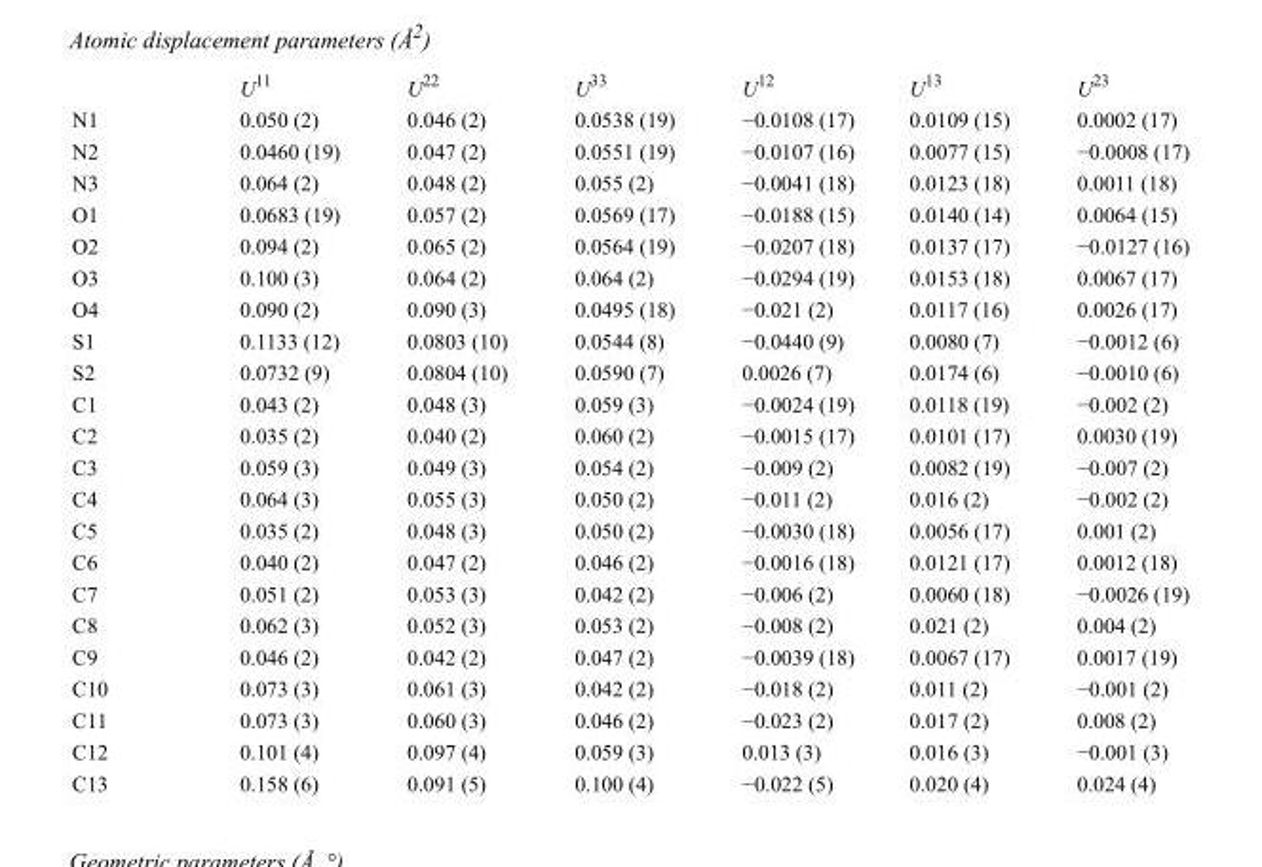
<table><thead><tr><td></td><td>U<sup>11</sup></td><td>U<sup>22</sup></td><td>U<sup>33</sup></td><td>U<sup>12</sup></td><td>U<sup>13</sup></td><td>U<sup>23</sup></td></tr></thead><tbody><tr><td>N1</td><td>0.050 (2)</td><td>0.046 (2)</td><td>0.0538 (19)</td><td>−0.0108 (17)</td><td>0.0109 (15)</td><td>0.0002 (17)</td></tr><tr><td>N2</td><td>0.0460 (19)</td><td>0.047 (2)</td><td>0.0551 (19)</td><td>−0.0107 (16)</td><td>0.0077 (15)</td><td>−0.0008 (17)</td></tr><tr><td>N3</td><td>0.064 (2)</td><td>0.048 (2)</td><td>0.055 (2)</td><td>−0.0041 (18)</td><td>0.0123 (18)</td><td>0.0011 (18)</td></tr><tr><td>O1</td><td>0.0683 (19)</td><td>0.057 (2)</td><td>0.0569 (17)</td><td>−0.0188 (15)</td><td>0.0140 (14)</td><td>0.0064 (15)</td></tr><tr><td>O2</td><td>0.094 (2)</td><td>0.065 (2)</td><td>0.0564 (19)</td><td>−0.0207 (18)</td><td>0.0137 (17)</td><td>−0.0127 (16)</td></tr><tr><td>O3</td><td>0.100 (3)</td><td>0.064 (2)</td><td>0.064 (2)</td><td>−0.0294 (19)</td><td>0.0153 (18)</td><td>0.0067 (17)</td></tr><tr><td>O4</td><td>0.090 (2)</td><td>0.090 (3)</td><td>0.0495 (18)</td><td>−0.021 (2)</td><td>0.0117 (16)</td><td>0.0026 (17)</td></tr><tr><td>S1</td><td>0.1133 (12)</td><td>0.0803 (10)</td><td>0.0544 (8)</td><td>−0.0440 (9)</td><td>0.0080 (7)</td><td>−0.0012 (6)</td></tr><tr><td>S2</td><td>0.0732 (9)</td><td>0.0804 (10)</td><td>0.0590 (7)</td><td>0.0026 (7)</td><td>0.0174 (6)</td><td>−0.0010 (6)</td></tr><tr><td>C1</td><td>0.043 (2)</td><td>0.048 (3)</td><td>0.059 (3)</td><td>−0.0024 (19)</td><td>0.0118 (19)</td><td>−0.002 (2)</td></tr><tr><td>C2</td><td>0.035 (2)</td><td>0.040 (2)</td><td>0.060 (2)</td><td>−0.0015 (17)</td><td>0.0101 (17)</td><td>0.0030 (19)</td></tr><tr><td>C3</td><td>0.059 (3)</td><td>0.049 (3)</td><td>0.054 (2)</td><td>−0.009 (2)</td><td>0.0082 (19)</td><td>−0.007 (2)</td></tr><tr><td>C4</td><td>0.064 (3)</td><td>0.055 (3)</td><td>0.050 (2)</td><td>−0.011 (2)</td><td>0.016 (2)</td><td>−0.002 (2)</td></tr><tr><td>C5</td><td>0.035 (2)</td><td>0.048 (3)</td><td>0.050 (2)</td><td>−0.0030 (18)</td><td>0.0056 (17)</td><td>0.001 (2)</td></tr><tr><td>C6</td><td>0.040 (2)</td><td>0.047 (2)</td><td>0.046 (2)</td><td>−0.0016 (18)</td><td>0.0121 (17)</td><td>0.0012 (18)</td></tr><tr><td>C7</td><td>0.051 (2)</td><td>0.053 (3)</td><td>0.042 (2)</td><td>−0.006 (2)</td><td>0.0060 (18)</td><td>−0.0026 (19)</td></tr><tr><td>C8</td><td>0.062 (3)</td><td>0.052 (3)</td><td>0.053 (2)</td><td>−0.008 (2)</td><td>0.021 (2)</td><td>0.004 (2)</td></tr><tr><td>C9</td><td>0.046 (2)</td><td>0.042 (2)</td><td>0.047 (2)</td><td>−0.0039 (18)</td><td>0.0067 (17)</td><td>0.0017 (19)</td></tr><tr><td>C10</td><td>0.073 (3)</td><td>0.061 (3)</td><td>0.042 (2)</td><td>−0.018 (2)</td><td>0.011 (2)</td><td>−0.001 (2)</td></tr><tr><td>C11</td><td>0.073 (3)</td><td>0.060 (3)</td><td>0.046 (2)</td><td>−0.023 (2)</td><td>0.017 (2)</td><td>0.008 (2)</td></tr><tr><td>C12</td><td>0.101 (4)</td><td>0.097 (4)</td><td>0.059 (3)</td><td>0.013 (3)</td><td>0.016 (3)</td><td>−0.001 (3)</td></tr><tr><td>C13</td><td>0.158 (6)</td><td>0.091 (5)</td><td>0.100 (4)</td><td>−0.022 (5)</td><td>0.020 (4)</td><td>0.024 (4)</td></tr></tbody></table>